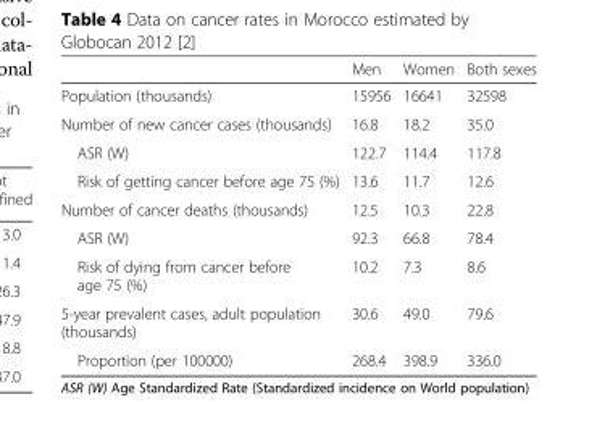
<table><thead><tr><td></td><td>Men</td><td>Women</td><td>Both sexes</td></tr></thead><tbody><tr><td>Population (thousands)</td><td>15956</td><td>16641</td><td>32598</td></tr><tr><td>Number of new cancer cases (thousands)</td><td>16.8</td><td>18.2</td><td>35.0</td></tr><tr><td>ASR (W)</td><td>122.7</td><td>114.4</td><td>117.8</td></tr><tr><td>Risk of getting cancer before age 75 (%)</td><td>13.6</td><td>11.7</td><td>12.6</td></tr><tr><td>Number of cancer deaths (thousands)</td><td>12.5</td><td>10.3</td><td>22.8</td></tr><tr><td>ASR (W)</td><td>92.3</td><td>66.8</td><td>78.4</td></tr><tr><td>Risk of dying from cancer before age 75 (%)</td><td>10.2</td><td>7.3</td><td>8.6</td></tr><tr><td>5-year prevalent cases, adult population (thousands)</td><td>30.6</td><td>49.0</td><td>79.6</td></tr><tr><td>Proportion (per 100000)</td><td>268.4</td><td>398.9</td><td>336.0</td></tr></tbody></table>